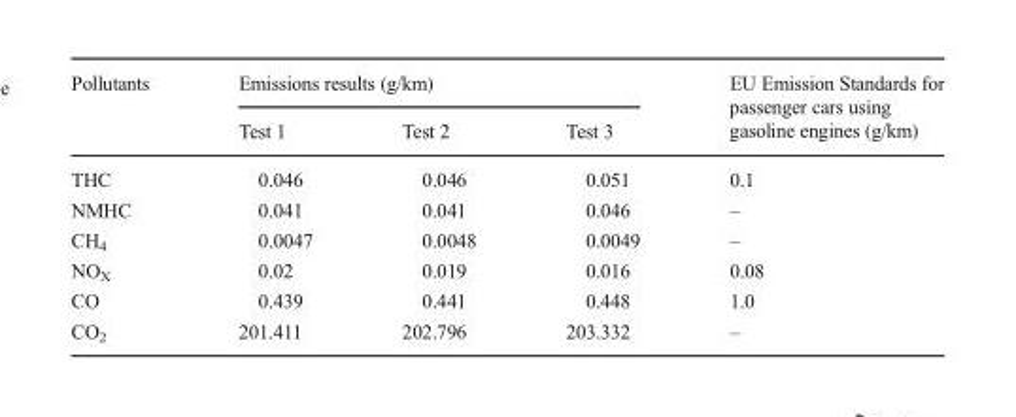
<table><thead><tr><td rowspan="2">Pollutants</td><td colspan="3">Emissions results (g/km)</td><td rowspan="2">EU Emission Standards for passenger cars using gasoline engines (g/km)</td></tr><tr><td>Test 1</td><td>Test 2</td><td>Test 3</td></tr></thead><tbody><tr><td>THC</td><td>0.046</td><td>0.046</td><td>0.051</td><td>0.1</td></tr><tr><td>NMHC</td><td>0.041</td><td>0.041</td><td>0.046</td><td>–</td></tr><tr><td>CH<sub>4</sub></td><td>0.0047</td><td>0.0048</td><td>0.0049</td><td>–</td></tr><tr><td>NO<sub>X</sub></td><td>0.02</td><td>0.019</td><td>0.016</td><td>0.08</td></tr><tr><td>CO</td><td>0.439</td><td>0.441</td><td>0.448</td><td>1.0</td></tr><tr><td>CO<sub>2</sub></td><td>201.411</td><td>202.796</td><td>203.332</td><td>–</td></tr></tbody></table>